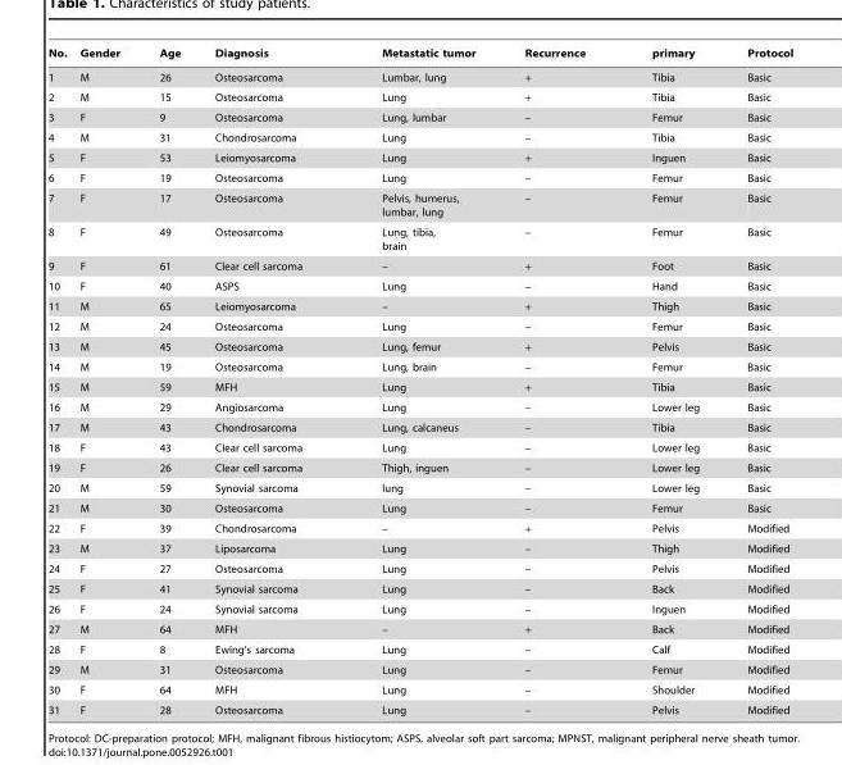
<table><thead><tr><td>No.</td><td>Gender</td><td>Age</td><td>Diagnosis</td><td>Metastatic tumor</td><td>Recurrence</td><td>primary</td><td>Protocol</td></tr></thead><tbody><tr><td>1</td><td>M</td><td>26</td><td>Osteosarcoma</td><td>Lumbar, lung</td><td>+</td><td>Tibia</td><td>Basic</td></tr><tr><td>2</td><td>M</td><td>15</td><td>Osteosarcoma</td><td>Lung</td><td>+</td><td>Tibia</td><td>Basic</td></tr><tr><td>3</td><td>F</td><td>9</td><td>Osteosarcoma</td><td>Lung, lumbar</td><td>–</td><td>Femur</td><td>Basic</td></tr><tr><td>4</td><td>M</td><td>31</td><td>Chondrosarcoma</td><td>Lung</td><td>–</td><td>Tibia</td><td>Basic</td></tr><tr><td>5</td><td>F</td><td>53</td><td>Leiomyosarcoma</td><td>Lung</td><td>+</td><td>Inguen</td><td>Basic</td></tr><tr><td>6</td><td>F</td><td>19</td><td>Osteosarcoma</td><td>Lung</td><td>–</td><td>Femur</td><td>Basic</td></tr><tr><td>7</td><td>F</td><td>17</td><td>Osteosarcoma</td><td>Pelvis, humerus, lumbar, lung</td><td>–</td><td>Femur</td><td>Basic</td></tr><tr><td>8</td><td>F</td><td>49</td><td>Osteosarcoma</td><td>Lung, tibia, brain</td><td>–</td><td>Femur</td><td>Basic</td></tr><tr><td>9</td><td>F</td><td>61</td><td>Clear cell sarcoma</td><td>–</td><td>+</td><td>Foot</td><td>Basic</td></tr><tr><td>10</td><td>F</td><td>40</td><td>ASPS</td><td>Lung</td><td>–</td><td>Hand</td><td>Basic</td></tr><tr><td>11</td><td>M</td><td>65</td><td>Leiomyosarcoma</td><td>–</td><td>+</td><td>Thigh</td><td>Basic</td></tr><tr><td>12</td><td>M</td><td>24</td><td>Osteosarcoma</td><td>Lung</td><td>–</td><td>Femur</td><td>Basic</td></tr><tr><td>13</td><td>M</td><td>45</td><td>Osteosarcoma</td><td>Lung, femur</td><td>+</td><td>Pelvis</td><td>Basic</td></tr><tr><td>14</td><td>M</td><td>19</td><td>Osteosarcoma</td><td>Lung, brain</td><td>–</td><td>Femur</td><td>Basic</td></tr><tr><td>15</td><td>M</td><td>59</td><td>MFH</td><td>Lung</td><td>+</td><td>Tibia</td><td>Basic</td></tr><tr><td>16</td><td>M</td><td>29</td><td>Angiosarcoma</td><td>Lung</td><td>–</td><td>Lower leg</td><td>Basic</td></tr><tr><td>17</td><td>M</td><td>43</td><td>Chondrosarcoma</td><td>Lung, calcaneus</td><td>–</td><td>Tibia</td><td>Basic</td></tr><tr><td>18</td><td>F</td><td>43</td><td>Clear cell sarcoma</td><td>Lung</td><td>–</td><td>Lower leg</td><td>Basic</td></tr><tr><td>19</td><td>F</td><td>26</td><td>Clear cell sarcoma</td><td>Thigh, inguen</td><td>–</td><td>Lower leg</td><td>Basic</td></tr><tr><td>20</td><td>M</td><td>59</td><td>Synovial sarcoma</td><td>lung</td><td>–</td><td>Lower leg</td><td>Basic</td></tr><tr><td>21</td><td>M</td><td>30</td><td>Osteosarcoma</td><td>Lung</td><td>–</td><td>Femur</td><td>Basic</td></tr><tr><td>22</td><td>F</td><td>39</td><td>Chondrosarcoma</td><td>–</td><td>+</td><td>Pelvis</td><td>Modified</td></tr><tr><td>23</td><td>M</td><td>37</td><td>Liposarcoma</td><td>Lung</td><td>–</td><td>Thigh</td><td>Modified</td></tr><tr><td>24</td><td>F</td><td>27</td><td>Osteosarcoma</td><td>Lung</td><td>–</td><td>Pelvis</td><td>Modified</td></tr><tr><td>25</td><td>F</td><td>41</td><td>Synovial sarcoma</td><td>Lung</td><td>–</td><td>Back</td><td>Modified</td></tr><tr><td>26</td><td>F</td><td>24</td><td>Synovial sarcoma</td><td>Lung</td><td>–</td><td>Inguen</td><td>Modified</td></tr><tr><td>27</td><td>M</td><td>64</td><td>MFH</td><td>–</td><td>+</td><td>Back</td><td>Modified</td></tr><tr><td>28</td><td>F</td><td>8</td><td>Ewing’s sarcoma</td><td>Lung</td><td>–</td><td>Calf</td><td>Modified</td></tr><tr><td>29</td><td>M</td><td>31</td><td>Osteosarcoma</td><td>Lung</td><td>–</td><td>Femur</td><td>Modified</td></tr><tr><td>30</td><td>F</td><td>64</td><td>MFH</td><td>Lung</td><td>–</td><td>Shoulder</td><td>Modified</td></tr><tr><td>31</td><td>F</td><td>28</td><td>Osteosarcoma</td><td>Lung</td><td>–</td><td>Pelvis</td><td>Modified</td></tr></tbody></table>